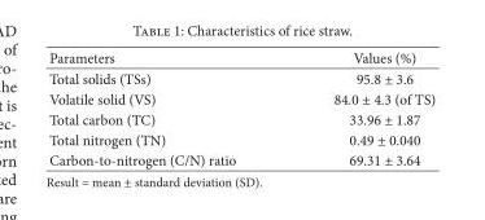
<table><thead><tr><td>Parameters</td><td>Values (%)</td></tr></thead><tbody><tr><td>Total solids (TSs)</td><td>95.8 ± 3.6</td></tr><tr><td>Volatile solid (VS)</td><td>84.0 ± 4.3 (of TS)</td></tr><tr><td>Total carbon (TC)</td><td>33.96 ± 1.87</td></tr><tr><td>Total nitrogen (TN)</td><td>0.49 ± 0.040</td></tr><tr><td>Carbon-to-nitrogen (C/N) ratio</td><td>69.31 ± 3.64</td></tr></tbody></table>